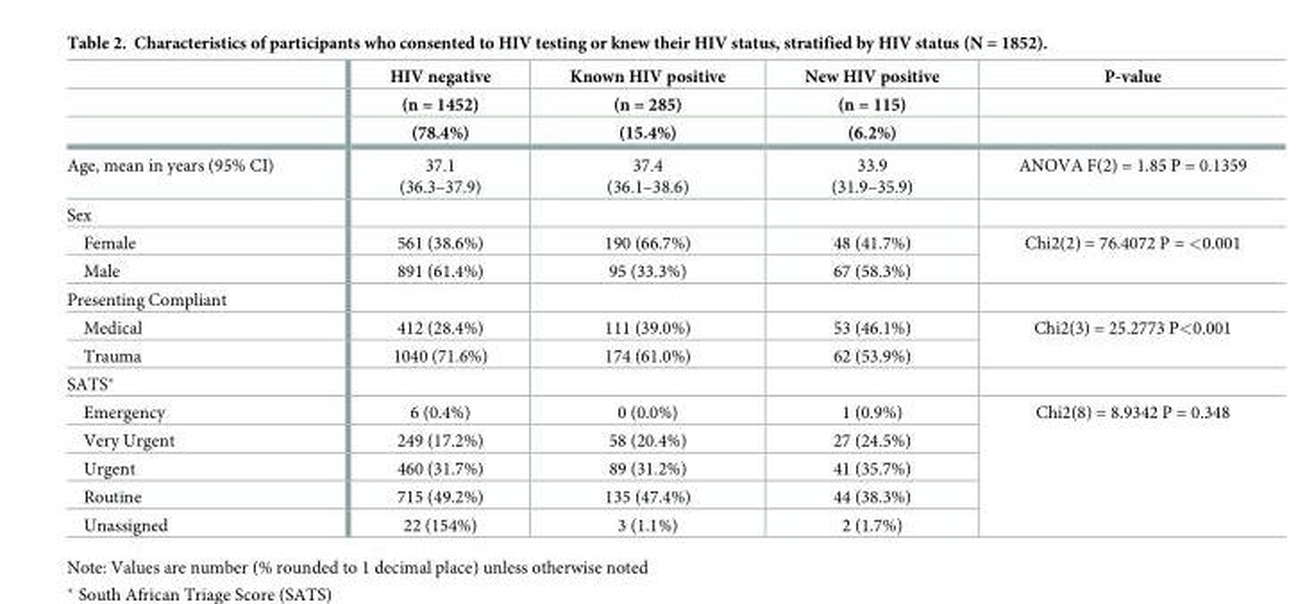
<table><thead><tr><td rowspan="3"></td><td rowspan="3">HIV negative (n = 1452) (78.4%)</td><td rowspan="3">Known HIV positive (n = 285) (15.4%)</td><td rowspan="3">New HIV positive (n = 115) (6.2%)</td><td rowspan="3">P-value</td></tr><tr></tr><tr></tr></thead><tbody><tr><td>Age, mean in years (95% CI)</td><td>37.1 (36.3–37.9)</td><td>37.4 (36.1–38.6)</td><td>33.9 (31.9–35.9)</td><td>ANOVA F(2) = 1.85 P = 0.1359</td></tr><tr><td colspan="5">Sex</td></tr><tr><td>Female</td><td>561 (38.6%)</td><td>190 (66.7%)</td><td>48 (41.7%)</td><td rowspan="2">Chi2(2) = 76.4072 P = &lt;0.001</td></tr><tr><td>Male</td><td>891 (61.4%)</td><td>95 (33.3%)</td><td>67 (58.3%)</td></tr><tr><td colspan="5">Presenting Compliant</td></tr><tr><td>Medical</td><td>412 (28.4%)</td><td>111 (39.0%)</td><td>53 (46.1%)</td><td rowspan="2">Chi2(3) = 25.2773 P&lt;0.001</td></tr><tr><td>Trauma</td><td>1040 (71.6%)</td><td>174 (61.0%)</td><td>62 (53.9%)</td></tr><tr><td colspan="5">SATS*</td></tr><tr><td>Emergency</td><td>6 (0.4%)</td><td>0 (0.0%)</td><td>1 (0.9%)</td><td rowspan="5">Chi2(8) = 8.9342 P = 0.348</td></tr><tr><td>Very Urgent</td><td>249 (17.2%)</td><td>58 (20.4%)</td><td>27 (24.5%)</td></tr><tr><td>Urgent</td><td>460 (31.7%)</td><td>89 (31.2%)</td><td>41 (35.7%)</td></tr><tr><td>Routine</td><td>715 (49.2%)</td><td>135 (47.4%)</td><td>44 (38.3%)</td></tr><tr><td>Unassigned</td><td>22 (154%)</td><td>3 (1.1%)</td><td>2 (1.7%)</td></tr></tbody></table>